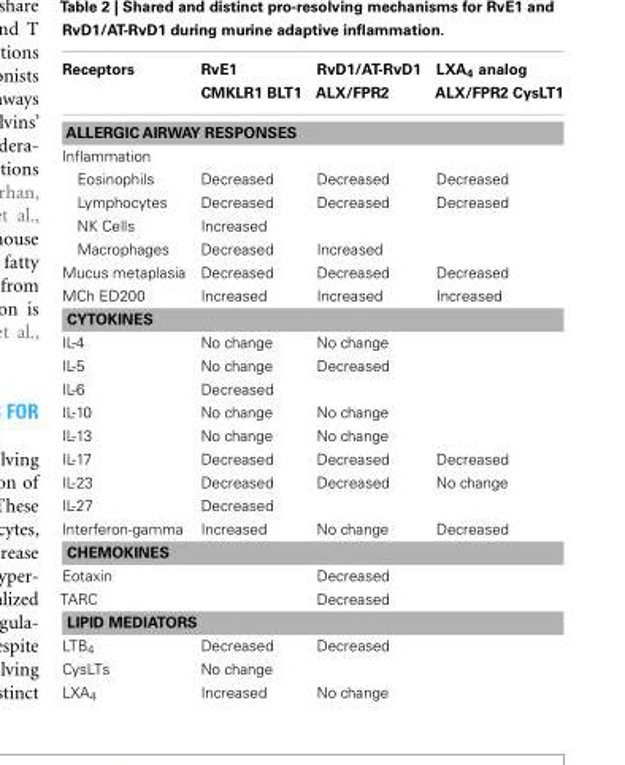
<table><thead><tr><td rowspan="2">Receptors</td><td rowspan="2">RvE1 CMKLR1 BLT1</td><td rowspan="2">RvD1/AT-RvD1 ALX/FPR2</td><td rowspan="2">LXA<sub>4</sub> analog ALX/FPR2 CysLT1</td></tr><tr></tr></thead><tbody><tr><td colspan="4">ALLERGIC AIRWAY RESPONSES</td></tr><tr><td colspan="4">Inflammation</td></tr><tr><td>Eosinophils</td><td>Decreased</td><td>Decreased</td><td>Decreased</td></tr><tr><td>Lymphocytes</td><td>Decreased</td><td>Decreased</td><td>Decreased</td></tr><tr><td>NK Cells</td><td>Increased</td><td></td><td></td></tr><tr><td>Macrophages</td><td>Decreased</td><td>Increased</td><td></td></tr><tr><td>Mucus metaplasia</td><td>Decreased</td><td>Decreased</td><td>Decreased</td></tr><tr><td>MCh ED200</td><td>Increased</td><td>Increased</td><td>Increased</td></tr><tr><td colspan="4">CYTOKINES</td></tr><tr><td>IL-4</td><td>No change</td><td>No change</td><td></td></tr><tr><td>IL-5</td><td>No change</td><td>Decreased</td><td></td></tr><tr><td>IL-6</td><td>Decreased</td><td></td><td></td></tr><tr><td>IL-10</td><td>No change</td><td>No change</td><td></td></tr><tr><td>IL-13</td><td>No change</td><td>No change</td><td></td></tr><tr><td>IL-17</td><td>Decreased</td><td>Decreased</td><td>Decreased</td></tr><tr><td>IL-23</td><td>Decreased</td><td>Decreased</td><td>No change</td></tr><tr><td>IL-27</td><td>Decreased</td><td></td><td></td></tr><tr><td>Interferon-gamma</td><td>Increased</td><td>No change</td><td>Decreased</td></tr><tr><td colspan="4">CHEMOKINES</td></tr><tr><td>Eotaxin</td><td></td><td>Decreased</td><td></td></tr><tr><td>TARC</td><td></td><td>Decreased</td><td></td></tr><tr><td colspan="4">LIPID MEDIATORS</td></tr><tr><td>LTB<sub>4</sub></td><td>Decreased</td><td>Decreased</td><td></td></tr><tr><td>CysLTs</td><td>No change</td><td></td><td></td></tr><tr><td>LXA<sub>4</sub></td><td>Increased</td><td>No change</td><td></td></tr></tbody></table>